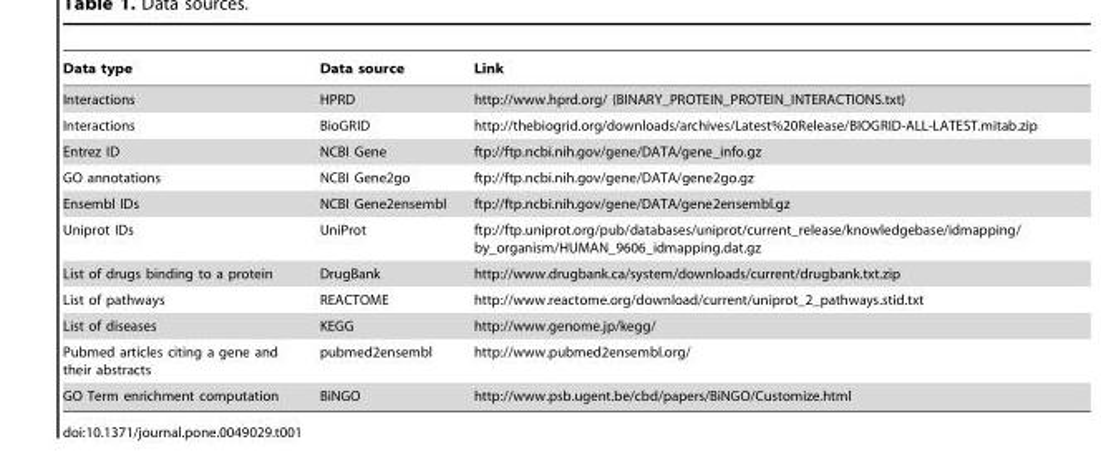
<table><thead><tr><td>Data type</td><td>Data source</td><td>Link</td></tr></thead><tbody><tr><td>Interactions</td><td>HPRD</td><td>http://www.hprd.org/ (BINARY_PROTEIN_PROTEIN_INTERACTIONS.txt)</td></tr><tr><td>Interactions</td><td>BioGRID</td><td>http://thebiogrid.org/downloads/archives/Latest%20Release/BIOGRID-ALL-LATEST.mitab.zip</td></tr><tr><td>Entrez ID</td><td>NCBI Gene</td><td>ftp://ftp.ncbi.nih.gov/gene/DATA/gene_info.gz</td></tr><tr><td>GO annotations</td><td>NCBI Gene2go</td><td>ftp://ftp.ncbi.nih.gov/gene/DATA/gene2go.gz</td></tr><tr><td>Ensembl IDs</td><td>NCBI Gene2ensembl</td><td>ftp://ftp.ncbi.nih.gov/gene/DATA/gene2ensembl.gz</td></tr><tr><td>Uniprot IDs</td><td>UniProt</td><td>ftp://ftp.uniprot.org/pub/databases/uniprot/current_release/knowledgebase/idmapping/ by_organism/HUMAN_9606_idmapping.dat.gz</td></tr><tr><td>List of drugs binding to a protein</td><td>DrugBank</td><td>http://www.drugbank.ca/system/downloads/current/drugbank.txt.zip</td></tr><tr><td>List of pathways</td><td>REACTOME</td><td>http://www.reactome.org/download/current/uniprot_2_pathways.stid.txt</td></tr><tr><td>List of diseases</td><td>KEGG</td><td>http://www.genome.jp/kegg/</td></tr><tr><td>Pubmed articles citing a gene and their abstracts</td><td>pubmed2ensembl</td><td>http://www.pubmed2ensembl.org/</td></tr><tr><td>GO Term enrichment computation</td><td>BiNGO</td><td>http://www.psb.ugent.be/cbd/papers/BiNGO/Customize.html</td></tr></tbody></table>